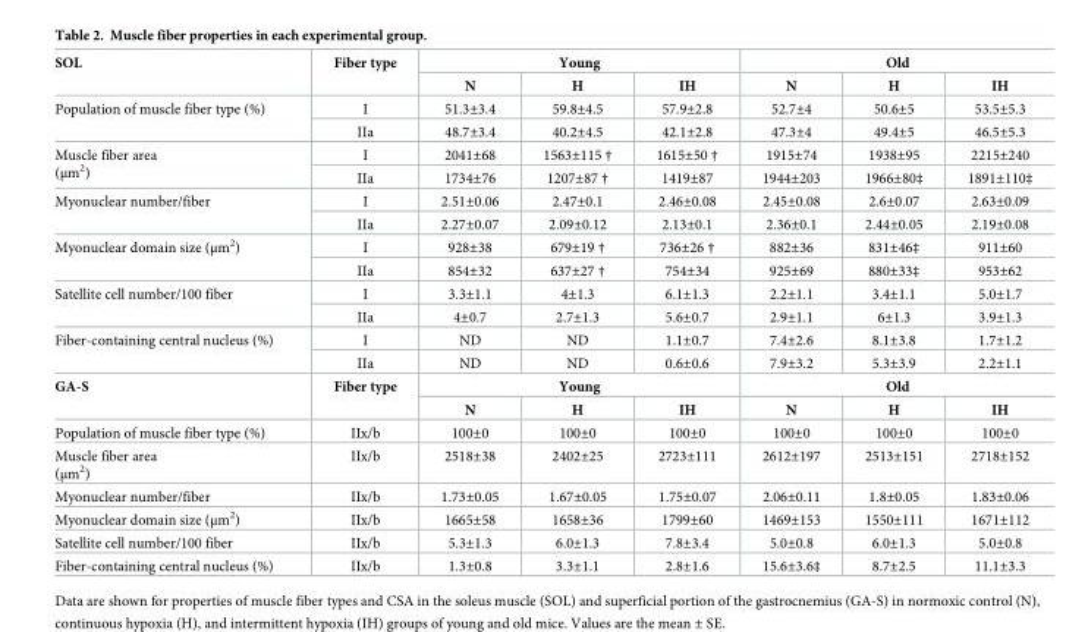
<table><tbody><tr><td rowspan="2">SOL</td><td rowspan="2">Fiber type</td><td colspan="3">Young</td><td colspan="3">Old</td></tr><tr><td>N</td><td>H</td><td>IH</td><td>N</td><td>H</td><td>IH</td></tr><tr><td rowspan="2">Population of muscle fiber type (%)</td><td>I</td><td>51.3±3.4</td><td>59.8±4.5</td><td>57.9±2.8</td><td>52.7±4</td><td>50.6±5</td><td>53.5±5.3</td></tr><tr><td>IIa</td><td>48.7±3.4</td><td>40.2±4.5</td><td>42.1±2.8</td><td>47.3±4</td><td>49.4±5</td><td>46.5±5.3</td></tr><tr><td rowspan="2">Muscle fiber area (μm<sup>2</sup>)</td><td>I</td><td>2041±68</td><td>1563±115 †</td><td>1615±50 †</td><td>1915±74</td><td>1938±95</td><td>2215±240</td></tr><tr><td>IIa</td><td>1734±76</td><td>1207±87 †</td><td>1419±87</td><td>1944±203</td><td>1966±80‡</td><td>1891±110‡</td></tr><tr><td rowspan="2">Myonuclear number/fiber</td><td>I</td><td>2.51±0.06</td><td>2.47±0.1</td><td>2.46±0.08</td><td>2.45±0.08</td><td>2.6±0.07</td><td>2.63±0.09</td></tr><tr><td>IIa</td><td>2.27±0.07</td><td>2.09±0.12</td><td>2.13±0.1</td><td>2.36±0.1</td><td>2.44±0.05</td><td>2.19±0.08</td></tr><tr><td rowspan="2">Myonuclear domain size (μm<sup>2</sup>)</td><td>I</td><td>928±38</td><td>679±19 †</td><td>736±26 †</td><td>882±36</td><td>831±46‡</td><td>911±60</td></tr><tr><td>IIa</td><td>854±32</td><td>637±27 †</td><td>754±34</td><td>925±69</td><td>880±33‡</td><td>953±62</td></tr><tr><td rowspan="2">Satellite cell number/100 fiber</td><td>I</td><td>3.3±1.1</td><td>4±1.3</td><td>6.1±1.3</td><td>2.2±1.1</td><td>3.4±1.1</td><td>5.0±1.7</td></tr><tr><td>IIa</td><td>4±0.7</td><td>2.7±1.3</td><td>5.6±0.7</td><td>2.9±1.1</td><td>6±1.3</td><td>3.9±1.3</td></tr><tr><td rowspan="2">Fiber-containing central nucleus (%)</td><td>I</td><td>ND</td><td>ND</td><td>1.1±0.7</td><td>7.4±2.6</td><td>8.1±3.8</td><td>1.7±1.2</td></tr><tr><td>IIa</td><td>ND</td><td>ND</td><td>0.6±0.6</td><td>7.9±3.2</td><td>5.3±3.9</td><td>2.2±1.1</td></tr><tr><td rowspan="2">GA-S</td><td rowspan="2">Fiber type</td><td colspan="3">Young</td><td colspan="3">Old</td></tr><tr><td>N</td><td>H</td><td>IH</td><td>N</td><td>H</td><td>IH</td></tr><tr><td>Population of muscle fiber type (%)</td><td>IIx/b</td><td>100±0</td><td>100±0</td><td>100±0</td><td>100±0</td><td>100±0</td><td>100±0</td></tr><tr><td>Muscle fiber area (μm<sup>2</sup>)</td><td>IIx/b</td><td>2518±38</td><td>2402±25</td><td>2723±111</td><td>2612±197</td><td>2513±151</td><td>2718±152</td></tr><tr><td>Myonuclear number/fiber</td><td>IIx/b</td><td>1.73±0.05</td><td>1.67±0.05</td><td>1.75±0.07</td><td>2.06±0.11</td><td>1.8±0.05</td><td>1.83±0.06</td></tr><tr><td>Myonuclear domain size (μm<sup>2</sup>)</td><td>IIx/b</td><td>1665±58</td><td>1658±36</td><td>1799±60</td><td>1469±153</td><td>1550±111</td><td>1671±112</td></tr><tr><td>Satellite cell number/100 fiber</td><td>IIx/b</td><td>5.3±1.3</td><td>6.0±1.3</td><td>7.8±3.4</td><td>5.0±0.8</td><td>6.0±1.3</td><td>5.0±0.8</td></tr><tr><td>Fiber-containing central nucleus (%)</td><td>IIx/b</td><td>1.3±0.8</td><td>3.3±1.1</td><td>2.8±1.6</td><td>15.6±3.6‡</td><td>8.7±2.5</td><td>11.1±3.3</td></tr></tbody></table>